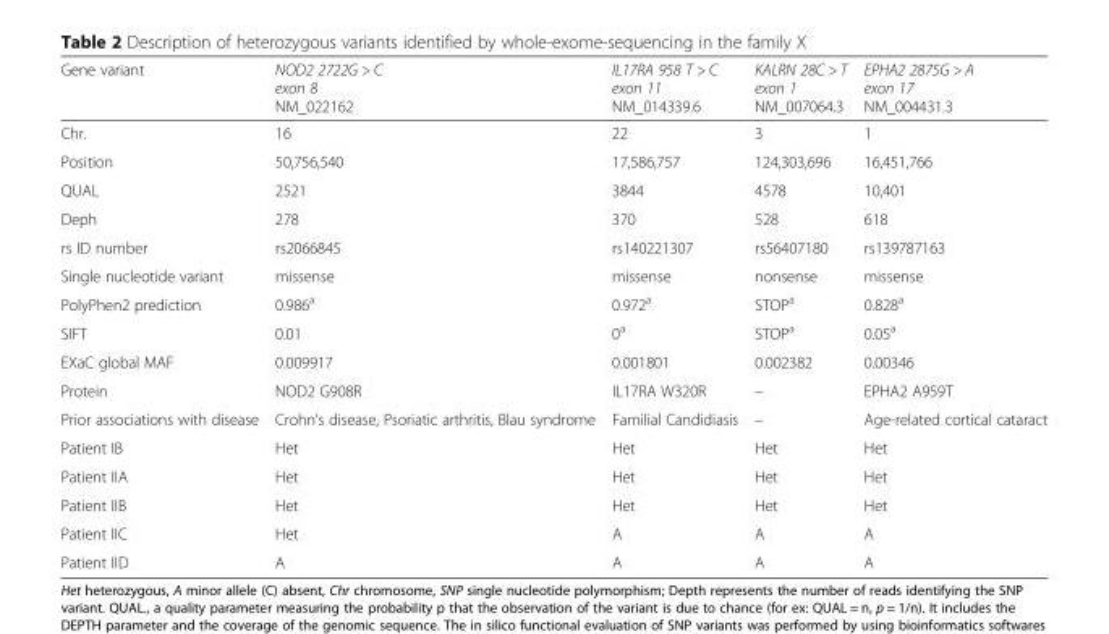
<table><thead><tr><td>Gene variant</td><td>NOD2 2722G &gt; C exon 8 NM_022162</td><td>IL17RA 958 T &gt; C exon 11 NM_014339.6</td><td>KALRN 28C &gt; T exon 1 NM_007064.3</td><td>EPHA2 2875G &gt; A exon 17 NM_004431.3</td></tr></thead><tbody><tr><td>Chr.</td><td>16</td><td>22</td><td>3</td><td>1</td></tr><tr><td>Position</td><td>50,756,540</td><td>17,586,757</td><td>124,303,696</td><td>16,451,766</td></tr><tr><td>QUAL</td><td>2521</td><td>3844</td><td>4578</td><td>10,401</td></tr><tr><td>Deph</td><td>278</td><td>370</td><td>528</td><td>618</td></tr><tr><td>rs ID number</td><td>rs2066845</td><td>rs140221307</td><td>rs56407180</td><td>rs139787163</td></tr><tr><td>Single nucleotide variant</td><td>missense</td><td>missense</td><td>nonsense</td><td>missense</td></tr><tr><td>PolyPhen2 prediction</td><td>0.986<sup>a</sup></td><td>0.972<sup>a</sup></td><td>STOP<sup>a</sup></td><td>0.828<sup>a</sup></td></tr><tr><td>SIFT</td><td>0.01</td><td>0<sup>a</sup></td><td>STOP<sup>a</sup></td><td>0.05<sup>a</sup></td></tr><tr><td>EXaC global MAF</td><td>0.009917</td><td>0.001801</td><td>0.002382</td><td>0.00346</td></tr><tr><td>Protein</td><td>NOD2 G908R</td><td>IL17RA W320R</td><td>–</td><td>EPHA2 A959T</td></tr><tr><td>Prior associations with disease</td><td>Crohn’s disease, Psoriatic arthritis, Blau syndrome</td><td>Familial Candidiasis</td><td>–</td><td>Age-related cortical cataract</td></tr><tr><td>Patient IB</td><td>Het</td><td>Het</td><td>Het</td><td>Het</td></tr><tr><td>Patient IIA</td><td>Het</td><td>Het</td><td>Het</td><td>Het</td></tr><tr><td>Patient IIB</td><td>Het</td><td>Het</td><td>Het</td><td>Het</td></tr><tr><td>Patient IIC</td><td>Het</td><td>A</td><td>A</td><td>A</td></tr><tr><td>Patient IID</td><td>A</td><td>A</td><td>A</td><td>A</td></tr></tbody></table>